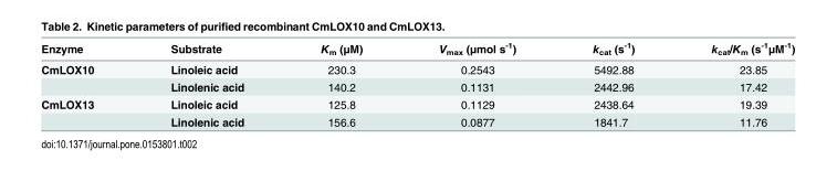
<table><thead><tr><td>Enzyme</td><td>Substrate</td><td>K<sub>m</sub> (μM)</td><td>V<sub>max</sub> (μmol s<sup>-1</sup>)</td><td>k<sub>cat</sub> (s<sup>-1</sup>)</td><td>k<sub>cat</sub>/K<sub>m</sub> (s<sup>-1</sup>μM<sup>-1</sup>)</td></tr></thead><tbody><tr><td rowspan="2">CmLOX10</td><td>Linoleic acid</td><td>230.3</td><td>0.2543</td><td>5492.88</td><td>23.85</td></tr><tr><td>Linolenic acid</td><td>140.2</td><td>0.1131</td><td>2442.96</td><td>17.42</td></tr><tr><td rowspan="2">CmLOX13</td><td>Linoleic acid</td><td>125.8</td><td>0.1129</td><td>2438.64</td><td>19.39</td></tr><tr><td>Linolenic acid</td><td>156.6</td><td>0.0877</td><td>1841.7</td><td>11.76</td></tr></tbody></table>